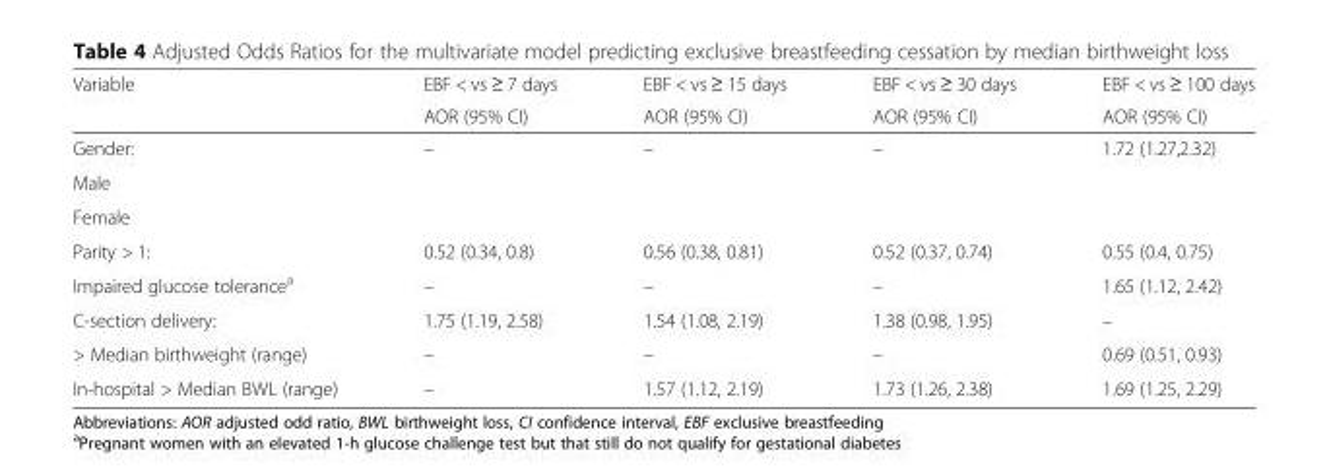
<table><thead><tr><td rowspan="2">Variable</td><td rowspan="2">EBF &lt; vs ≥ 7 days AOR (95% CI)</td><td rowspan="2">EBF &lt; vs ≥ 15 days AOR (95% CI)</td><td rowspan="2">EBF &lt; vs ≥ 30 days AOR (95% CI)</td><td rowspan="2">EBF &lt; vs ≥ 100 days AOR (95% CI)</td></tr><tr></tr></thead><tbody><tr><td>Gender:</td><td>–</td><td>–</td><td>–</td><td>1.72 (1.27,2.32)</td></tr><tr><td colspan="5">Male</td></tr><tr><td colspan="5">Female</td></tr><tr><td>Parity &gt; 1:</td><td>0.52 (0.34, 0.8)</td><td>0.56 (0.38, 0.81)</td><td>0.52 (0.37, 0.74)</td><td>0.55 (0.4, 0.75)</td></tr><tr><td>Impaired glucose tolerance<sup>a</sup></td><td>–</td><td>–</td><td>–</td><td>1.65 (1.12, 2.42)</td></tr><tr><td>C-section delivery:</td><td>1.75 (1.19, 2.58)</td><td>1.54 (1.08, 2.19)</td><td>1.38 (0.98, 1.95)</td><td>–</td></tr><tr><td>&gt; Median birthweight (range)</td><td>–</td><td>–</td><td>–</td><td>0.69 (0.51, 0.93)</td></tr><tr><td>In-hospital &gt; Median BWL (range)</td><td>–</td><td>1.57 (1.12, 2.19)</td><td>1.73 (1.26, 2.38)</td><td>1.69 (1.25, 2.29)</td></tr></tbody></table>